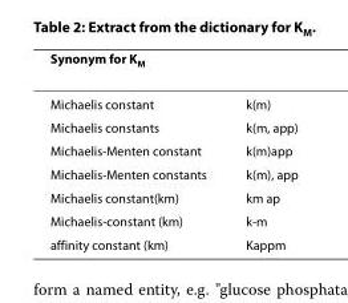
<table><thead><tr><td>Synonym for K<sub>M</sub></td><td></td></tr></thead><tbody><tr><td>Michaelis constant</td><td>k(m)</td></tr><tr><td>Michaelis constants</td><td>k(m, app)</td></tr><tr><td>Michaelis-Menten constant</td><td>k(m)app</td></tr><tr><td>Michaelis-Menten constants</td><td>k(m), app</td></tr><tr><td>Michaelis constant(km)</td><td>km ap</td></tr><tr><td>Michaelis-constant (km)</td><td>k-m</td></tr><tr><td>affinity constant (km)</td><td>Kappm</td></tr></tbody></table>